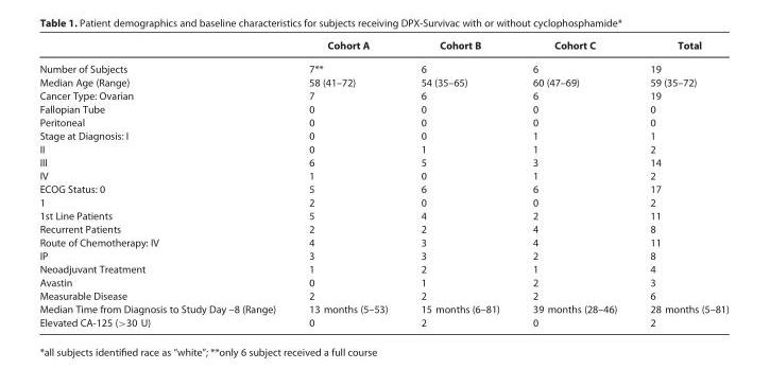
<table><thead><tr><td></td><td>Cohort A</td><td>Cohort B</td><td>Cohort C</td><td>Total</td></tr></thead><tbody><tr><td>Number of Subjects</td><td>7**</td><td>6</td><td>6</td><td>19</td></tr><tr><td>Median Age (Range)</td><td>58 (41–72)</td><td>54 (35–65)</td><td>60 (47–69)</td><td>59 (35–72)</td></tr><tr><td>Cancer Type: Ovarian</td><td>7</td><td>6</td><td>6</td><td>19</td></tr><tr><td>Fallopian Tube</td><td>0</td><td>0</td><td>0</td><td>0</td></tr><tr><td>Peritoneal</td><td>0</td><td>0</td><td>0</td><td>0</td></tr><tr><td>Stage at Diagnosis: I</td><td>0</td><td>0</td><td>1</td><td>1</td></tr><tr><td>II</td><td>0</td><td>1</td><td>1</td><td>2</td></tr><tr><td>III</td><td>6</td><td>5</td><td>3</td><td>14</td></tr><tr><td>IV</td><td>1</td><td>0</td><td>1</td><td>2</td></tr><tr><td>ECOG Status: 0</td><td>5</td><td>6</td><td>6</td><td>17</td></tr><tr><td>1</td><td>2</td><td>0</td><td>0</td><td>2</td></tr><tr><td>1st Line Patients</td><td>5</td><td>4</td><td>2</td><td>11</td></tr><tr><td>Recurrent Patients</td><td>2</td><td>2</td><td>4</td><td>8</td></tr><tr><td>Route of Chemotherapy: IV</td><td>4</td><td>3</td><td>4</td><td>11</td></tr><tr><td>IP</td><td>3</td><td>3</td><td>2</td><td>8</td></tr><tr><td>Neoadjuvant Treatment</td><td>1</td><td>2</td><td>1</td><td>4</td></tr><tr><td>Avastin</td><td>0</td><td>1</td><td>2</td><td>3</td></tr><tr><td>Measurable Disease</td><td>2</td><td>2</td><td>2</td><td>6</td></tr><tr><td>Median Time from Diagnosis to Study Day –8 (Range)</td><td>13 months (5–53)</td><td>15 months (6–81)</td><td>39 months (28–46)</td><td>28 months (5–81)</td></tr><tr><td>Elevated CA-125 (&gt;30 U)</td><td>0</td><td>2</td><td>0</td><td>2</td></tr></tbody></table>